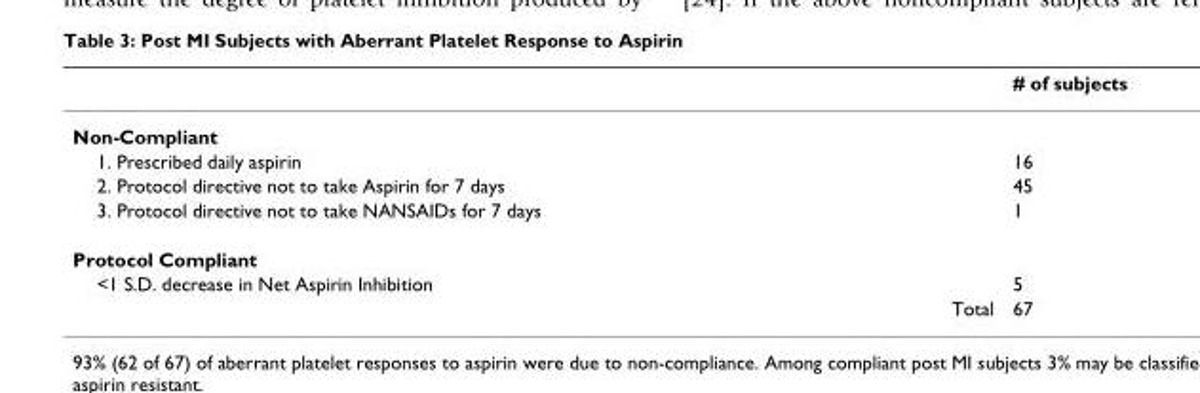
<table><thead><tr><td></td><td># of subjects</td></tr></thead><tbody><tr><td colspan="2">Non-Compliant</td></tr><tr><td>1. Prescribed daily aspirin</td><td>16</td></tr><tr><td>2. Protocol directive not to take Aspirin for 7 days</td><td>45</td></tr><tr><td>3. Protocol directive not to take NANSAIDs for 7 days</td><td>1</td></tr><tr><td colspan="2">Protocol Compliant</td></tr><tr><td>&lt;1 S.D. decrease in Net Aspirin Inhibition</td><td>5</td></tr><tr><td>Total</td><td>67</td></tr></tbody></table>